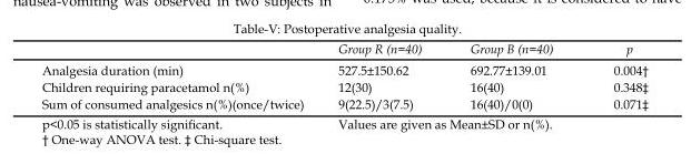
<table><thead><tr><td></td><td>Group R (n=40)</td><td>Group B (n=40)</td><td>p</td></tr></thead><tbody><tr><td>Analgesia duration (min)</td><td>527.5±150.62</td><td>692.77±139.01</td><td>0.004†</td></tr><tr><td>Children requiring paracetamol n(%)</td><td>12(30)</td><td>16(40)</td><td>0.348‡</td></tr><tr><td>Sum of consumed analgesics n(%)(once/twice)</td><td>9(22.5)/3(7.5)</td><td>16(40)/0(0)</td><td>0.071‡</td></tr></tbody></table>